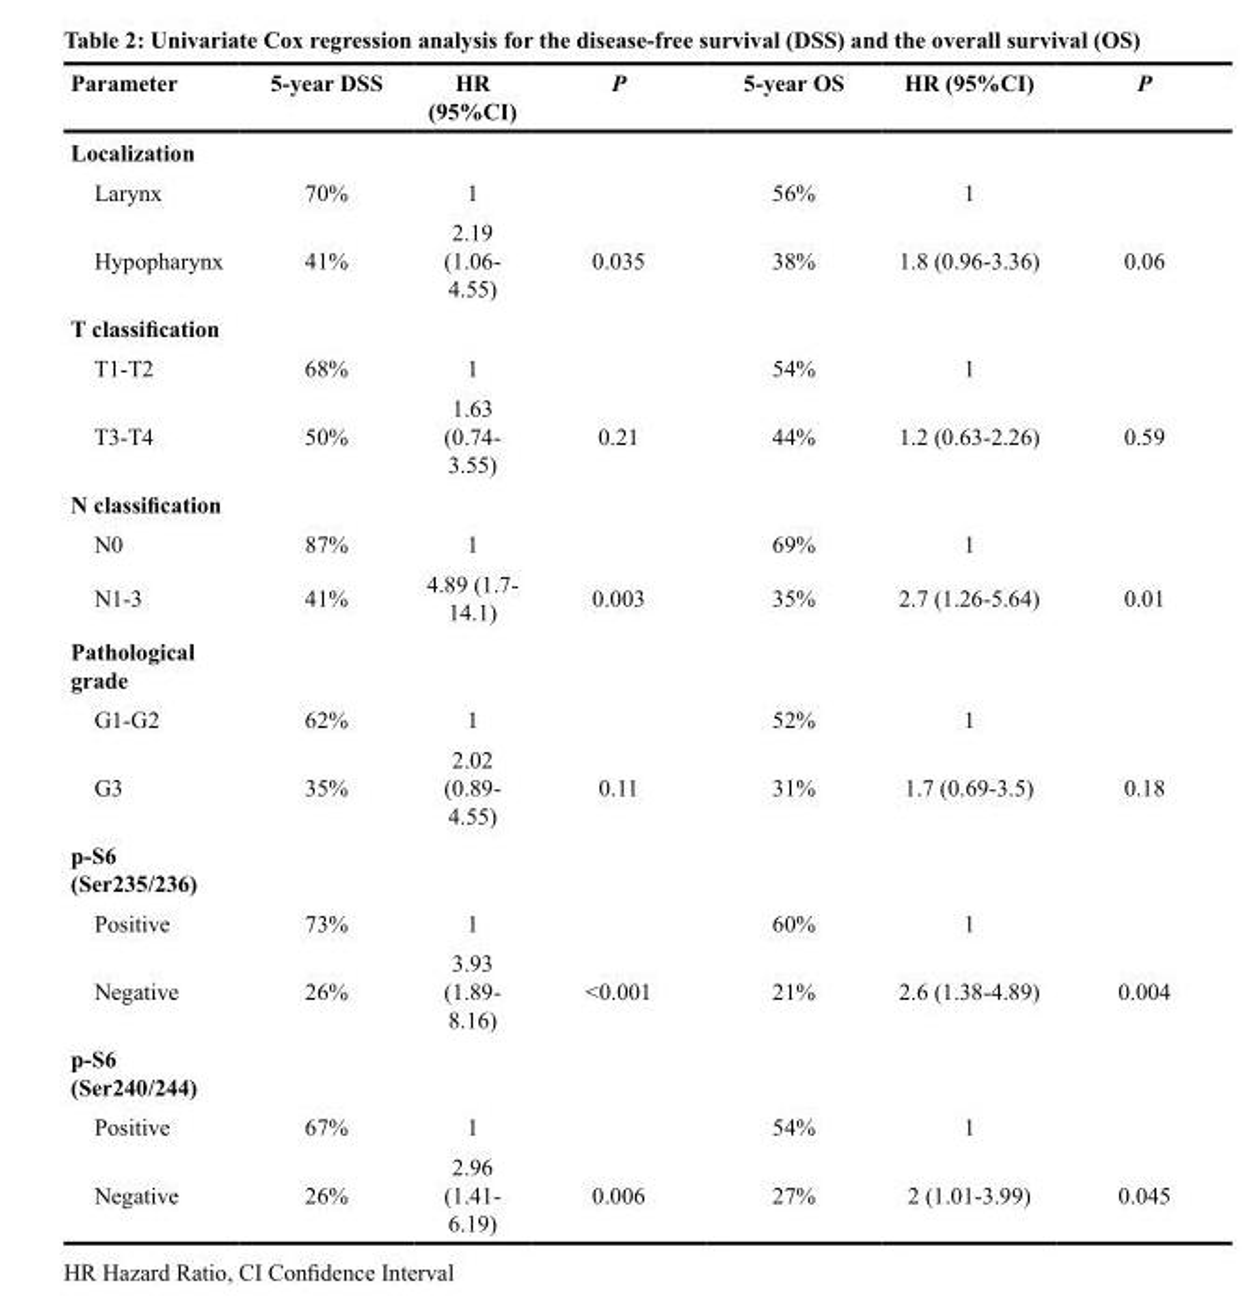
<table><thead><tr><td>Parameter</td><td>5-year DSS</td><td>HR (95%CI)</td><td>P</td><td>5-year OS</td><td>HR (95%CI)</td><td>P</td></tr></thead><tbody><tr><td colspan="7">Localization</td></tr><tr><td>Larynx</td><td>70%</td><td>1</td><td></td><td>56%</td><td>1</td><td></td></tr><tr><td>Hypopharynx</td><td>41%</td><td>2.19 (1.06- 4.55)</td><td>0.035</td><td>38%</td><td>1.8 (0.96-3.36)</td><td>0.06</td></tr><tr><td colspan="7">T classification</td></tr><tr><td>T1-T2</td><td>68%</td><td>1</td><td></td><td>54%</td><td>1</td><td></td></tr><tr><td>T3-T4</td><td>50%</td><td>1.63 (0.74- 3.55)</td><td>0.21</td><td>44%</td><td>1.2 (0.63-2.26)</td><td>0.59</td></tr><tr><td colspan="7">N classification</td></tr><tr><td>N0</td><td>87%</td><td>1</td><td></td><td>69%</td><td>1</td><td></td></tr><tr><td>N1-3</td><td>41%</td><td>4.89 (1.7- 14.1)</td><td>0.003</td><td>35%</td><td>2.7 (1.26-5.64)</td><td>0.01</td></tr><tr><td colspan="7">Pathological grade</td></tr><tr><td>G1-G2</td><td>62%</td><td>1</td><td></td><td>52%</td><td>1</td><td></td></tr><tr><td>G3</td><td>35%</td><td>2.02 (0.89- 4.55)</td><td>0.11</td><td>31%</td><td>1.7 (0.69-3.5)</td><td>0.18</td></tr><tr><td colspan="7">p-S6 (Ser235/236)</td></tr><tr><td>Positive</td><td>73%</td><td>1</td><td></td><td>60%</td><td>1</td><td></td></tr><tr><td>Negative</td><td>26%</td><td>3.93 (1.89- 8.16)</td><td>&lt;0.001</td><td>21%</td><td>2.6 (1.38-4.89)</td><td>0.004</td></tr><tr><td colspan="7">p-S6 (Ser240/244)</td></tr><tr><td>Positive</td><td>67%</td><td>1</td><td></td><td>54%</td><td>1</td><td></td></tr><tr><td>Negative</td><td>26%</td><td>2.96 (1.41- 6.19)</td><td>0.006</td><td>27%</td><td>2 (1.01-3.99)</td><td>0.045</td></tr></tbody></table>